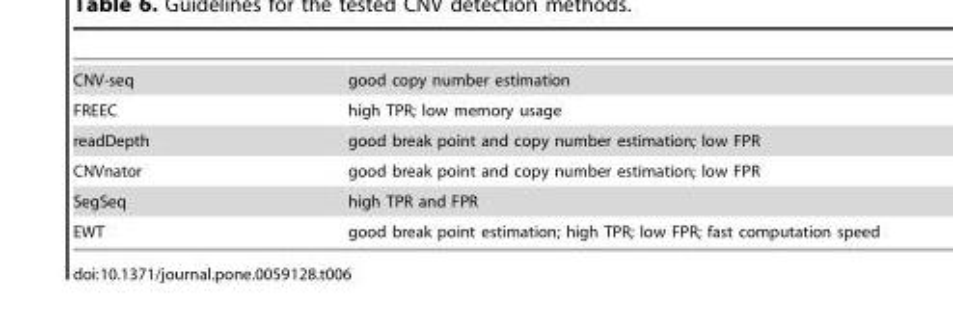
<table><tbody><tr><td>CNV-seq</td><td>good copy number estimation</td></tr><tr><td>FREEC</td><td>high TPR; low memory usage</td></tr><tr><td>readDepth</td><td>good break point and copy number estimation; low FPR</td></tr><tr><td>CNVnator</td><td>good break point and copy number estimation; low FPR</td></tr><tr><td>SegSeq</td><td>high TPR and FPR</td></tr><tr><td>EWT</td><td>good break point estimation; high TPR; low FPR; fast computation speed</td></tr></tbody></table>